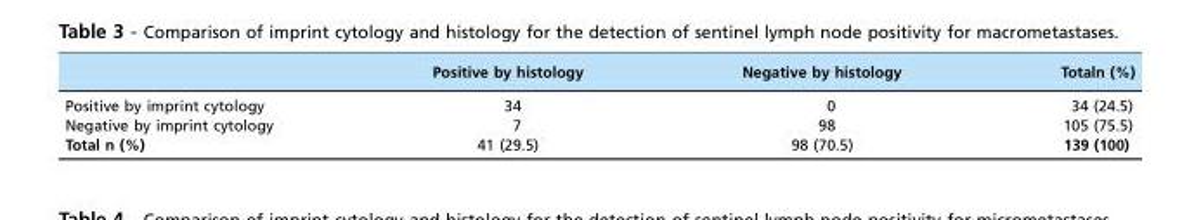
<table><thead><tr><td></td><td>Positive by histology</td><td>Negative by histology</td><td>Totaln (%)</td></tr></thead><tbody><tr><td>Positive by imprint cytology</td><td>34</td><td>0</td><td>34 (24.5)</td></tr><tr><td>Negative by imprint cytology</td><td>7</td><td>98</td><td>105 (75.5)</td></tr><tr><td>Total n (%)</td><td>41 (29.5)</td><td>98 (70.5)</td><td>139 (100)</td></tr></tbody></table>